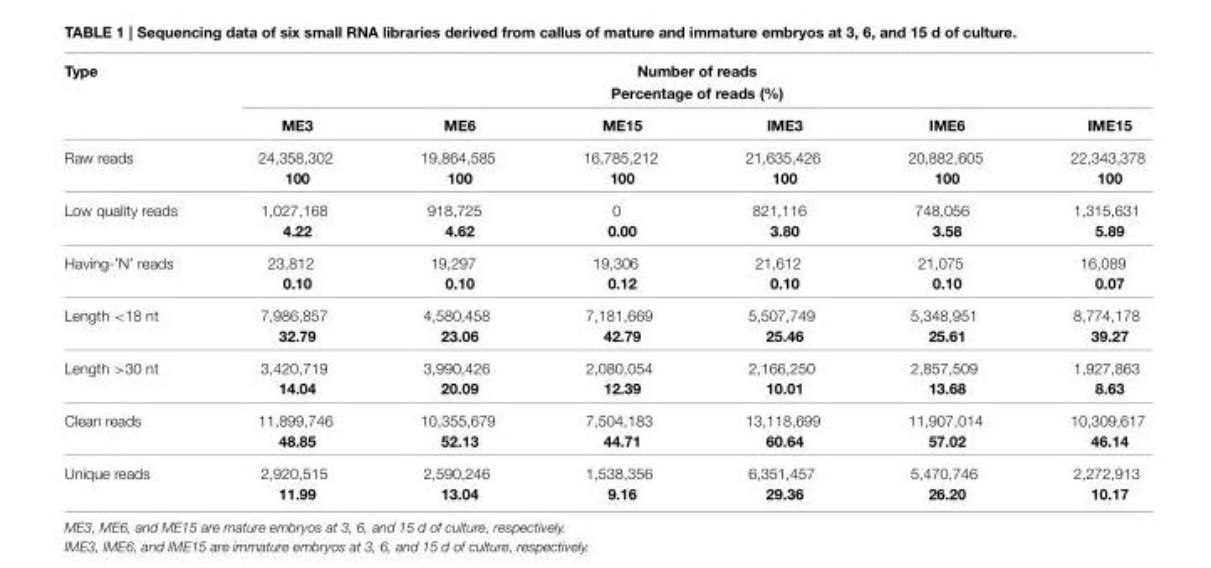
<table><thead><tr><td rowspan="2">Type</td><td colspan="6">Number of reads Percentage of reads (%)</td></tr><tr><td>ME3</td><td>ME6</td><td>ME15</td><td>IME3</td><td>IME6</td><td>IME15</td></tr></thead><tbody><tr><td>Raw reads</td><td>24,358,302 100</td><td>19,864,585 100</td><td>16,785,212 100</td><td>21,635,426 100</td><td>20,882,605 100</td><td>22,343,378 100</td></tr><tr><td>Low quality reads</td><td>1,027,168 4.22</td><td>918,725 4.62</td><td>0 0.00</td><td>821,116 3.80</td><td>748,056 3.58</td><td>1,315,631 5.89</td></tr><tr><td>Having-’N’ reads</td><td>23,812 0.10</td><td>19,297 0.10</td><td>19,306 0.12</td><td>21,612 0.10</td><td>21,075 0.10</td><td>16,089 0.07</td></tr><tr><td>Length &lt;18 nt</td><td>7,986,857 32.79</td><td>4,580,458 23.06</td><td>7,181,669 42.79</td><td>5,507,749 25.46</td><td>5,348,951 25.61</td><td>8,774,178 39.27</td></tr><tr><td>Length &gt;30 nt</td><td>3,420,719 14.04</td><td>3,990,426 20.09</td><td>2,080,054 12.39</td><td>2,166,250 10.01</td><td>2,857,509 13.68</td><td>1,927,863 8.63</td></tr><tr><td>Clean reads</td><td>11,899,746 48.85</td><td>10,355,679 52.13</td><td>7,504,183 44.71</td><td>13,118,699 60.64</td><td>11,907,014 57.02</td><td>10,309,617 46.14</td></tr><tr><td>Unique reads</td><td>2,920,515 11.99</td><td>2,590,246 13.04</td><td>1,538,356 9.16</td><td>6,351,457 29.36</td><td>5,470,746 26.20</td><td>2,272,913 10.17</td></tr></tbody></table>